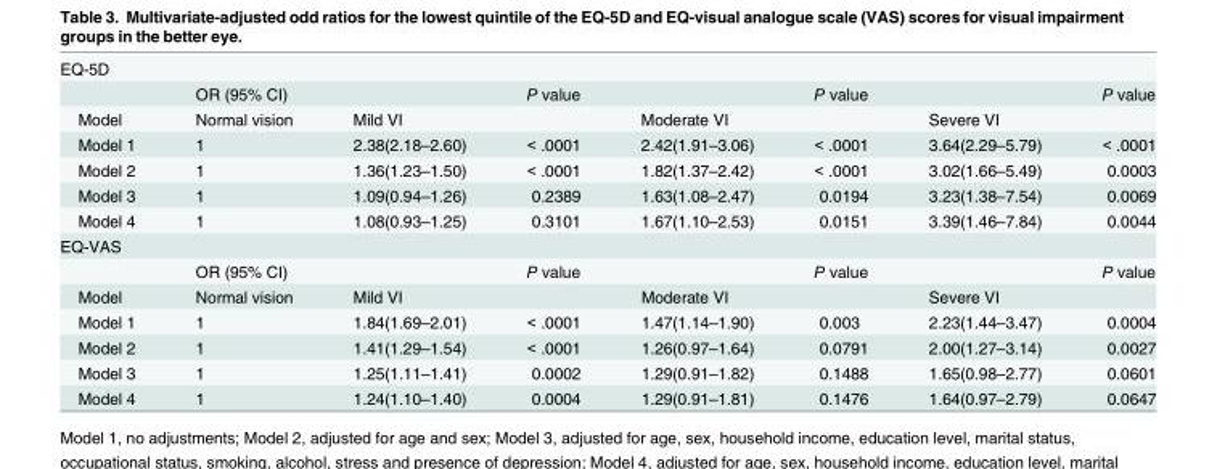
<table><tbody><tr><td colspan="8">EQ-5D</td></tr><tr><td></td><td>OR (95% CI)</td><td></td><td>P value</td><td></td><td>P value</td><td></td><td>P value</td></tr><tr><td>Model</td><td>Normal vision</td><td>Mild VI</td><td></td><td>Moderate VI</td><td></td><td>Severe VI</td><td></td></tr><tr><td>Model 1</td><td>1</td><td>2.38(2.18–2.60)</td><td>&lt; .0001</td><td>2.42(1.91–3.06)</td><td>&lt; .0001</td><td>3.64(2.29–5.79)</td><td>&lt; .0001</td></tr><tr><td>Model 2</td><td>1</td><td>1.36(1.23–1.50)</td><td>&lt; .0001</td><td>1.82(1.37–2.42)</td><td>&lt; .0001</td><td>3.02(1.66–5.49)</td><td>0.0003</td></tr><tr><td>Model 3</td><td>1</td><td>1.09(0.94–1.26)</td><td>0.2389</td><td>1.63(1.08–2.47)</td><td>0.0194</td><td>3.23(1.38–7.54)</td><td>0.0069</td></tr><tr><td>Model 4</td><td>1</td><td>1.08(0.93–1.25)</td><td>0.3101</td><td>1.67(1.10–2.53)</td><td>0.0151</td><td>3.39(1.46–7.84)</td><td>0.0044</td></tr><tr><td colspan="8">EQ-VAS</td></tr><tr><td></td><td>OR (95% CI)</td><td></td><td>P value</td><td></td><td>P value</td><td></td><td>P value</td></tr><tr><td>Model</td><td>Normal vision</td><td>Mild VI</td><td></td><td>Moderate VI</td><td></td><td>Severe VI</td><td></td></tr><tr><td>Model 1</td><td>1</td><td>1.84(1.69–2.01)</td><td>&lt; .0001</td><td>1.47(1.14–1.90)</td><td>0.003</td><td>2.23(1.44–3.47)</td><td>0.0004</td></tr><tr><td>Model 2</td><td>1</td><td>1.41(1.29–1.54)</td><td>&lt; .0001</td><td>1.26(0.97–1.64)</td><td>0.0791</td><td>2.00(1.27–3.14)</td><td>0.0027</td></tr><tr><td>Model 3</td><td>1</td><td>1.25(1.11–1.41)</td><td>0.0002</td><td>1.29(0.91–1.82)</td><td>0.1488</td><td>1.65(0.98–2.77)</td><td>0.0601</td></tr><tr><td>Model 4</td><td>1</td><td>1.24(1.10–1.40)</td><td>0.0004</td><td>1.29(0.91–1.81)</td><td>0.1476</td><td>1.64(0.97–2.79)</td><td>0.0647</td></tr></tbody></table>